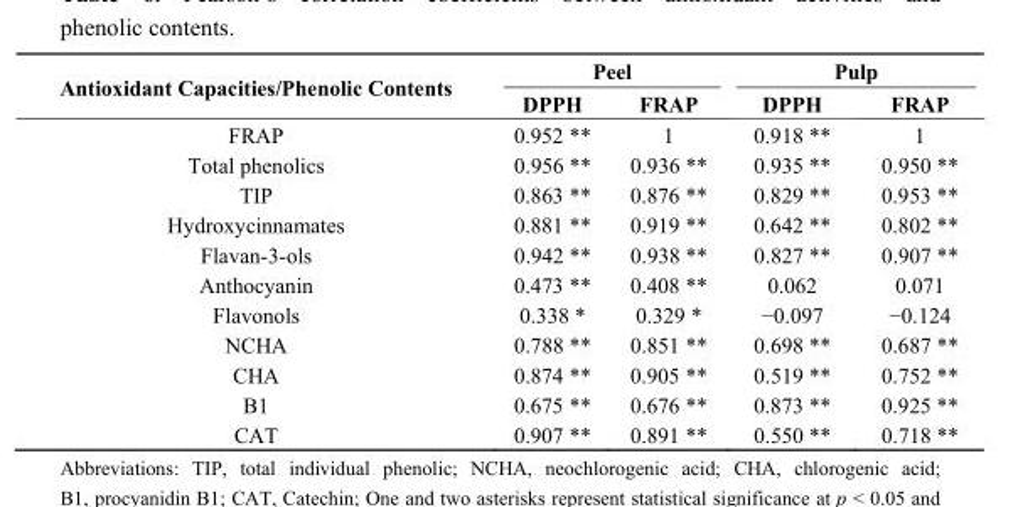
<table><thead><tr><td rowspan="2">Antioxidant Capacities/Phenolic Contents</td><td colspan="2">Peel</td><td colspan="2">Pulp</td></tr><tr><td>DPPH</td><td>FRAP</td><td>DPPH</td><td>FRAP</td></tr></thead><tbody><tr><td>FRAP</td><td>0.952 **</td><td>1</td><td>0.918 **</td><td>1</td></tr><tr><td>Total phenolics</td><td>0.956 **</td><td>0.936 **</td><td>0.935 **</td><td>0.950 **</td></tr><tr><td>TIP</td><td>0.863 **</td><td>0.876 **</td><td>0.829 **</td><td>0.953 **</td></tr><tr><td>Hydroxycinnamates</td><td>0.881 **</td><td>0.919 **</td><td>0.642 **</td><td>0.802 **</td></tr><tr><td>Flavan-3-ols</td><td>0.942 **</td><td>0.938 **</td><td>0.827 **</td><td>0.907 **</td></tr><tr><td>Anthocyanin</td><td>0.473 **</td><td>0.408 **</td><td>0.062</td><td>0.071</td></tr><tr><td>Flavonols</td><td>0.338 *</td><td>0.329 *</td><td>−0.097</td><td>−0.124</td></tr><tr><td>NCHA</td><td>0.788 **</td><td>0.851 **</td><td>0.698 **</td><td>0.687 **</td></tr><tr><td>CHA</td><td>0.874 **</td><td>0.905 **</td><td>0.519 **</td><td>0.752 **</td></tr><tr><td>B1</td><td>0.675 **</td><td>0.676 **</td><td>0.873 **</td><td>0.925 **</td></tr><tr><td>CAT</td><td>0.907 **</td><td>0.891 **</td><td>0.550 **</td><td>0.718 **</td></tr></tbody></table>